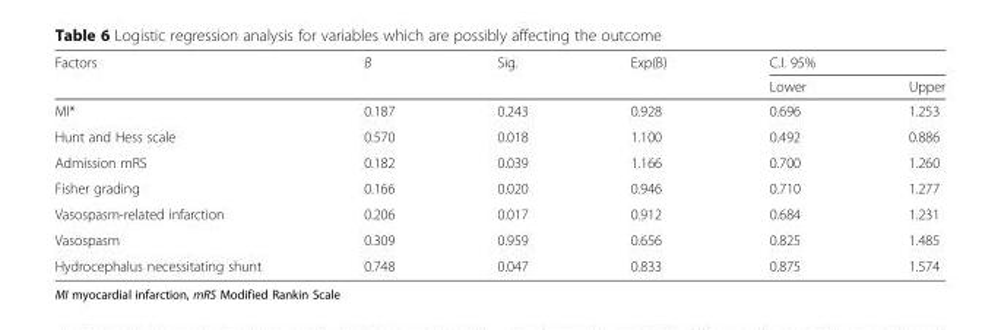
<table><thead><tr><td rowspan="2">Factors</td><td rowspan="2">B</td><td rowspan="2">Sig.</td><td rowspan="2">Exp(B)</td><td colspan="2">C.I. 95%</td></tr><tr><td>Lower</td><td>Upper</td></tr></thead><tbody><tr><td>MI*</td><td>0.187</td><td>0.243</td><td>0.928</td><td>0.696</td><td>1.253</td></tr><tr><td>Hunt and Hess scale</td><td>0.570</td><td>0.018</td><td>1.100</td><td>0.492</td><td>0.886</td></tr><tr><td>Admission mRS</td><td>0.182</td><td>0.039</td><td>1.166</td><td>0.700</td><td>1.260</td></tr><tr><td>Fisher grading</td><td>0.166</td><td>0.020</td><td>0.946</td><td>0.710</td><td>1.277</td></tr><tr><td>Vasospasm-related infarction</td><td>0.206</td><td>0.017</td><td>0.912</td><td>0.684</td><td>1.231</td></tr><tr><td>Vasospasm</td><td>0.309</td><td>0.959</td><td>0.656</td><td>0.825</td><td>1.485</td></tr><tr><td>Hydrocephalus necessitating shunt</td><td>0.748</td><td>0.047</td><td>0.833</td><td>0.875</td><td>1.574</td></tr></tbody></table>